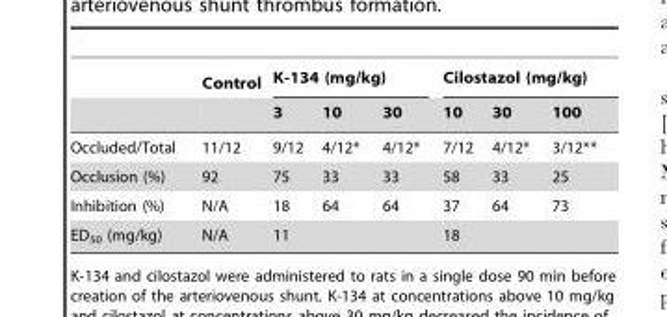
<table><thead><tr><td rowspan="2"></td><td rowspan="2">Control</td><td colspan="3">K-134 (mg/kg)</td><td colspan="3">Cilostazol (mg/kg)</td></tr><tr><td>3</td><td>10</td><td>30</td><td>10</td><td>30</td><td>100</td></tr></thead><tbody><tr><td>Occluded/Total</td><td>11/12</td><td>9/12</td><td>4/12*</td><td>4/12*</td><td>7/12</td><td>4/12*</td><td>3/12**</td></tr><tr><td>Occlusion (%)</td><td>92</td><td>75</td><td>33</td><td>33</td><td>58</td><td>33</td><td>25</td></tr><tr><td>Inhibition (%)</td><td>N/A</td><td>18</td><td>64</td><td>64</td><td>37</td><td>64</td><td>73</td></tr><tr><td>ED<sub>50</sub> (mg/kg)</td><td>N/A</td><td colspan="3">11</td><td colspan="3">18</td></tr></tbody></table>